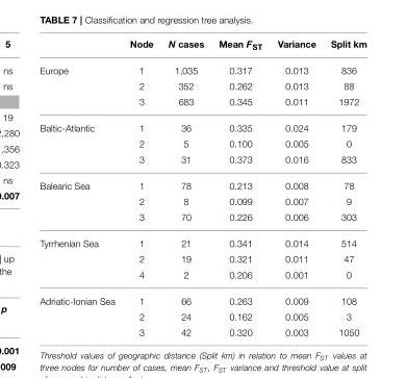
<table><thead><tr><td></td><td>Node</td><td>N cases</td><td>Mean F<sub>ST</sub></td><td>Variance</td><td>Split km</td></tr></thead><tbody><tr><td rowspan="3">Europe</td><td>1</td><td>1,035</td><td>0.317</td><td>0.013</td><td>836</td></tr><tr><td>2</td><td>352</td><td>0.262</td><td>0.013</td><td>88</td></tr><tr><td>3</td><td>683</td><td>0.345</td><td>0.011</td><td>1972</td></tr><tr><td rowspan="3">Baltic-Atlantic</td><td>1</td><td>36</td><td>0.335</td><td>0.024</td><td>179</td></tr><tr><td>2</td><td>5</td><td>0.100</td><td>0.005</td><td>0</td></tr><tr><td>3</td><td>31</td><td>0.373</td><td>0.016</td><td>833</td></tr><tr><td rowspan="3">Balearic Sea</td><td>1</td><td>78</td><td>0.213</td><td>0.008</td><td>78</td></tr><tr><td>2</td><td>8</td><td>0.099</td><td>0.007</td><td>9</td></tr><tr><td>3</td><td>70</td><td>0.226</td><td>0.006</td><td>303</td></tr><tr><td rowspan="3">Tyrrhenian Sea</td><td>1</td><td>21</td><td>0.341</td><td>0.014</td><td>514</td></tr><tr><td>2</td><td>19</td><td>0.321</td><td>0.011</td><td>47</td></tr><tr><td>4</td><td>2</td><td>0.206</td><td>0.001</td><td>0</td></tr><tr><td rowspan="3">Adriatic-Ionian Sea</td><td>1</td><td>66</td><td>0.263</td><td>0.009</td><td>108</td></tr><tr><td>2</td><td>24</td><td>0.162</td><td>0.005</td><td>3</td></tr><tr><td>3</td><td>42</td><td>0.320</td><td>0.003</td><td>1050</td></tr></tbody></table>